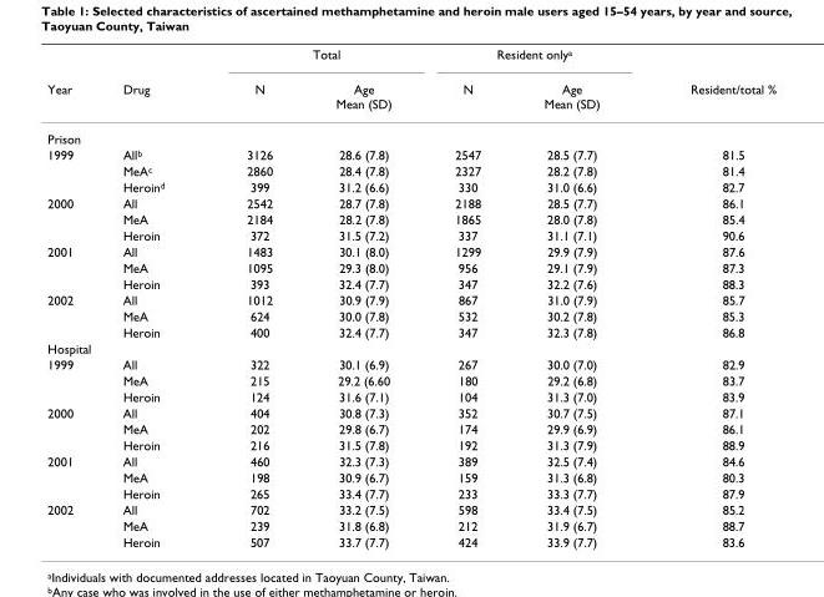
<table><thead><tr><td rowspan="2">Year</td><td rowspan="2">Drug</td><td colspan="2">Total</td><td colspan="2">Resident only<sup>a</sup></td><td rowspan="2">Resident/total %</td></tr><tr><td>N</td><td>Age Mean (SD)</td><td>N</td><td>Age Mean (SD)</td></tr></thead><tbody><tr><td colspan="7">Prison</td></tr><tr><td rowspan="3">1999</td><td>All<sup>b</sup></td><td>3126</td><td>28.6 (7.8)</td><td>2547</td><td>28.5 (7.7)</td><td>81.5</td></tr><tr><td>MeA<sup>c</sup></td><td>2860</td><td>28.4 (7.8)</td><td>2327</td><td>28.2 (7.8)</td><td>81.4</td></tr><tr><td>Heroin<sup>d</sup></td><td>399</td><td>31.2 (6.6)</td><td>330</td><td>31.0 (6.6)</td><td>82.7</td></tr><tr><td rowspan="3">2000</td><td>All</td><td>2542</td><td>28.7 (7.8)</td><td>2188</td><td>28.5 (7.7)</td><td>86.1</td></tr><tr><td>MeA</td><td>2184</td><td>28.2 (7.8)</td><td>1865</td><td>28.0 (7.8)</td><td>85.4</td></tr><tr><td>Heroin</td><td>372</td><td>31.5 (7.2)</td><td>337</td><td>31.1 (7.1)</td><td>90.6</td></tr><tr><td rowspan="3">2001</td><td>All</td><td>1483</td><td>30.1 (8.0)</td><td>1299</td><td>29.9 (7.9)</td><td>87.6</td></tr><tr><td>MeA</td><td>1095</td><td>29.3 (8.0)</td><td>956</td><td>29.1 (7.9)</td><td>87.3</td></tr><tr><td>Heroin</td><td>393</td><td>32.4 (7.7)</td><td>347</td><td>32.2 (7.6)</td><td>88.3</td></tr><tr><td rowspan="3">2002</td><td>All</td><td>1012</td><td>30.9 (7.9)</td><td>867</td><td>31.0 (7.9)</td><td>85.7</td></tr><tr><td>MeA</td><td>624</td><td>30.0 (7.8)</td><td>532</td><td>30.2 (7.8)</td><td>85.3</td></tr><tr><td>Heroin</td><td>400</td><td>32.4 (7.7)</td><td>347</td><td>32.3 (7.8)</td><td>86.8</td></tr><tr><td colspan="7">Hospital</td></tr><tr><td rowspan="3">1999</td><td>All</td><td>322</td><td>30.1 (6.9)</td><td>267</td><td>30.0 (7.0)</td><td>82.9</td></tr><tr><td>MeA</td><td>215</td><td>29.2 (6.60</td><td>180</td><td>29.2 (6.8)</td><td>83.7</td></tr><tr><td>Heroin</td><td>124</td><td>31.6 (7.1)</td><td>104</td><td>31.3 (7.0)</td><td>83.9</td></tr><tr><td rowspan="3">2000</td><td>All</td><td>404</td><td>30.8 (7.3)</td><td>352</td><td>30.7 (7.5)</td><td>87.1</td></tr><tr><td>MeA</td><td>202</td><td>29.8 (6.7)</td><td>174</td><td>29.9 (6.9)</td><td>86.1</td></tr><tr><td>Heroin</td><td>216</td><td>31.5 (7.8)</td><td>192</td><td>31.3 (7.9)</td><td>88.9</td></tr><tr><td rowspan="3">2001</td><td>All</td><td>460</td><td>32.3 (7.3)</td><td>389</td><td>32.5 (7.4)</td><td>84.6</td></tr><tr><td>MeA</td><td>198</td><td>30.9 (6.7)</td><td>159</td><td>31.3 (6.8)</td><td>80.3</td></tr><tr><td>Heroin</td><td>265</td><td>33.4 (7.7)</td><td>233</td><td>33.3 (7.7)</td><td>87.9</td></tr><tr><td rowspan="3">2002</td><td>All</td><td>702</td><td>33.2 (7.5)</td><td>598</td><td>33.4 (7.5)</td><td>85.2</td></tr><tr><td>MeA</td><td>239</td><td>31.8 (6.8)</td><td>212</td><td>31.9 (6.7)</td><td>88.7</td></tr><tr><td>Heroin</td><td>507</td><td>33.7 (7.7)</td><td>424</td><td>33.9 (7.7)</td><td>83.6</td></tr></tbody></table>